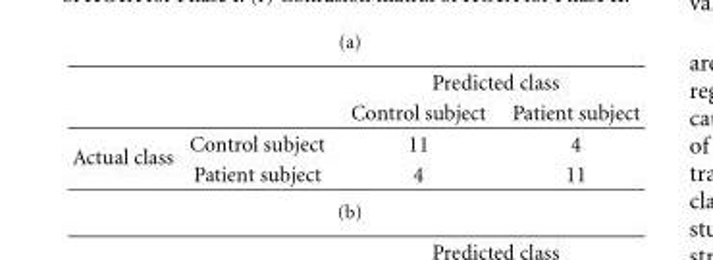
<table><thead><tr><td rowspan="2"></td><td rowspan="2"></td><td colspan="2">Predicted class</td></tr><tr><td>Control subject</td><td>Patient subject</td></tr></thead><tbody><tr><td rowspan="2">Actual class</td><td>Control subject</td><td>11</td><td>4</td></tr><tr><td>Patient subject</td><td>4</td><td>11</td></tr></tbody></table>